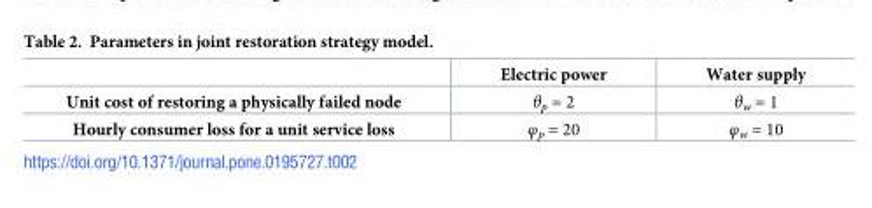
<table><thead><tr><td></td><td>Electric power</td><td>Water supply</td></tr></thead><tbody><tr><td>Unit cost of restoring a physically failed node</td><td>θ<sub>p</sub> = 2</td><td>θ<sub>w</sub> = 1</td></tr><tr><td>Hourly consumer loss for a unit service loss</td><td>φ<sub>p</sub> = 20</td><td>φ<sub>w</sub> = 10</td></tr></tbody></table>